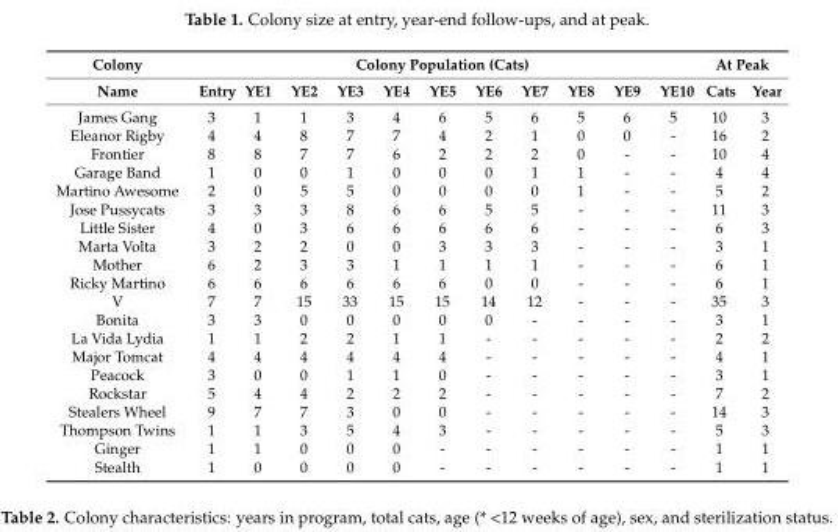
<table><thead><tr><td rowspan="2">Colony Name</td><td colspan="11">Colony Population (Cats)</td><td colspan="2">At Peak</td></tr><tr><td>Entry</td><td>YE1</td><td>YE2</td><td>YE3</td><td>YE4</td><td>YE5</td><td>YE6</td><td>YE7</td><td>YE8</td><td>YE9</td><td>YE10</td><td>Cats</td><td>Year</td></tr></thead><tbody><tr><td>James Gang</td><td>3</td><td>1</td><td>1</td><td>3</td><td>4</td><td>6</td><td>5</td><td>6</td><td>5</td><td>6</td><td>5</td><td>10</td><td>3</td></tr><tr><td>Eleanor Rigby</td><td>4</td><td>4</td><td>8</td><td>7</td><td>7</td><td>4</td><td>2</td><td>1</td><td>0</td><td>0</td><td>-</td><td>16</td><td>2</td></tr><tr><td>Frontier</td><td>8</td><td>8</td><td>7</td><td>7</td><td>6</td><td>2</td><td>2</td><td>2</td><td>0</td><td>-</td><td>-</td><td>10</td><td>4</td></tr><tr><td>Garage Band</td><td>1</td><td>0</td><td>0</td><td>1</td><td>0</td><td>0</td><td>0</td><td>1</td><td>1</td><td>-</td><td>-</td><td>4</td><td>4</td></tr><tr><td>Martino Awesome</td><td>2</td><td>0</td><td>5</td><td>5</td><td>0</td><td>0</td><td>0</td><td>0</td><td>1</td><td>-</td><td>-</td><td>5</td><td>2</td></tr><tr><td>Jose Pussycats</td><td>3</td><td>3</td><td>3</td><td>8</td><td>6</td><td>6</td><td>5</td><td>5</td><td>-</td><td>-</td><td>-</td><td>11</td><td>3</td></tr><tr><td>Little Sister</td><td>4</td><td>0</td><td>3</td><td>6</td><td>6</td><td>6</td><td>6</td><td>6</td><td>-</td><td>-</td><td>-</td><td>6</td><td>3</td></tr><tr><td>Marta Volta</td><td>3</td><td>2</td><td>2</td><td>0</td><td>0</td><td>3</td><td>3</td><td>3</td><td>-</td><td>-</td><td>-</td><td>3</td><td>1</td></tr><tr><td>Mother</td><td>6</td><td>2</td><td>3</td><td>3</td><td>1</td><td>1</td><td>1</td><td>1</td><td>-</td><td>-</td><td>-</td><td>6</td><td>1</td></tr><tr><td>Ricky Martino</td><td>6</td><td>6</td><td>6</td><td>6</td><td>6</td><td>6</td><td>0</td><td>0</td><td>-</td><td>-</td><td>-</td><td>6</td><td>1</td></tr><tr><td>V</td><td>7</td><td>7</td><td>15</td><td>33</td><td>15</td><td>15</td><td>14</td><td>12</td><td>-</td><td>-</td><td>-</td><td>35</td><td>3</td></tr><tr><td>Bonita</td><td>3</td><td>3</td><td>0</td><td>0</td><td>0</td><td>0</td><td>0</td><td>-</td><td>-</td><td>-</td><td>-</td><td>3</td><td>1</td></tr><tr><td>La Vida Lydia</td><td>1</td><td>1</td><td>2</td><td>2</td><td>1</td><td>1</td><td>-</td><td>-</td><td>-</td><td>-</td><td>-</td><td>2</td><td>2</td></tr><tr><td>Major Tomcat</td><td>4</td><td>4</td><td>4</td><td>4</td><td>4</td><td>4</td><td>-</td><td>-</td><td>-</td><td>-</td><td>-</td><td>4</td><td>1</td></tr><tr><td>Peacock</td><td>3</td><td>0</td><td>0</td><td>1</td><td>1</td><td>0</td><td>-</td><td>-</td><td>-</td><td>-</td><td>-</td><td>3</td><td>1</td></tr><tr><td>Rockstar</td><td>5</td><td>4</td><td>4</td><td>2</td><td>2</td><td>2</td><td>-</td><td>-</td><td>-</td><td>-</td><td>-</td><td>7</td><td>2</td></tr><tr><td>Stealers Wheel</td><td>9</td><td>7</td><td>7</td><td>3</td><td>0</td><td>0</td><td>-</td><td>-</td><td>-</td><td>-</td><td>-</td><td>14</td><td>3</td></tr><tr><td>Thompson Twins</td><td>1</td><td>1</td><td>3</td><td>5</td><td>4</td><td>3</td><td>-</td><td>-</td><td>-</td><td>-</td><td>-</td><td>5</td><td>3</td></tr><tr><td>Ginger</td><td>1</td><td>1</td><td>0</td><td>0</td><td>0</td><td>-</td><td>-</td><td>-</td><td>-</td><td>-</td><td>-</td><td>1</td><td>1</td></tr><tr><td>Stealth</td><td>1</td><td>0</td><td>0</td><td>0</td><td>0</td><td>-</td><td>-</td><td>-</td><td>-</td><td>-</td><td>-</td><td>1</td><td>1</td></tr></tbody></table>